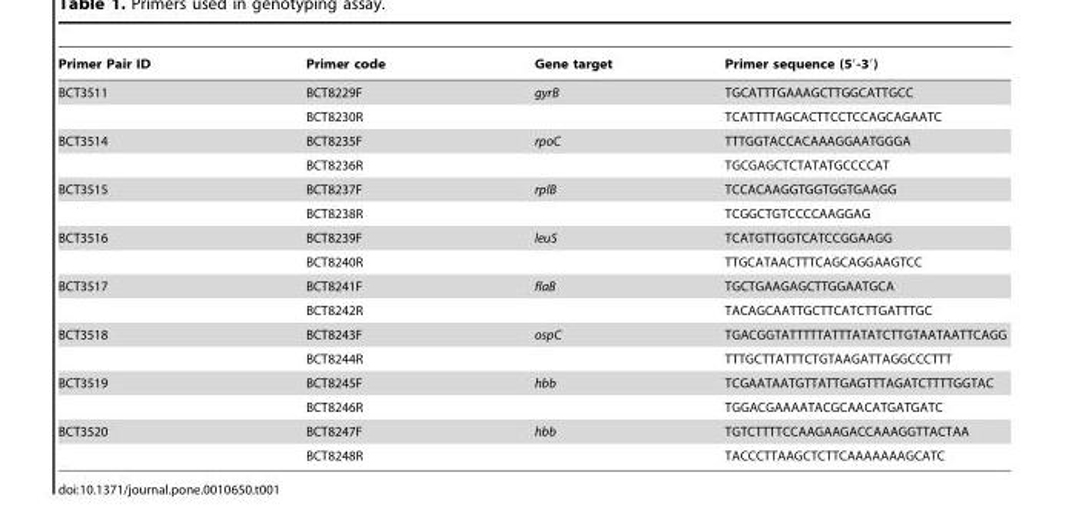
<table><thead><tr><td>Primer Pair ID</td><td>Primer code</td><td>Gene target</td><td>Primer sequence (5′-3′)</td></tr></thead><tbody><tr><td rowspan="2">BCT3511</td><td>BCT8229F</td><td>gyrB</td><td>TGCATTTGAAAGCTTGGCATTGCC</td></tr><tr><td>BCT8230R</td><td></td><td>TCATTTTAGCACTTCCTCCAGCAGAATC</td></tr><tr><td rowspan="2">BCT3514</td><td>BCT8235F</td><td>rpoC</td><td>TTTGGTACCACAAAGGAATGGGA</td></tr><tr><td>BCT8236R</td><td></td><td>TGCGAGCTCTATATGCCCCAT</td></tr><tr><td rowspan="2">BCT3515</td><td>BCT8237F</td><td>rplB</td><td>TCCACAAGGTGGTGGTGAAGG</td></tr><tr><td>BCT8238R</td><td></td><td>TCGGCTGTCCCCAAGGAG</td></tr><tr><td rowspan="2">BCT3516</td><td>BCT8239F</td><td>leuS</td><td>TCATGTTGGTCATCCGGAAGG</td></tr><tr><td>BCT8240R</td><td></td><td>TTGCATAACTTTCAGCAGGAAGTCC</td></tr><tr><td rowspan="2">BCT3517</td><td>BCT8241F</td><td>flaB</td><td>TGCTGAAGAGCTTGGAATGCA</td></tr><tr><td>BCT8242R</td><td></td><td>TACAGCAATTGCTTCATCTTGATTTGC</td></tr><tr><td rowspan="2">BCT3518</td><td>BCT8243F</td><td>ospC</td><td>TGACGGTATTTTTATTTATATCTTGTAATAATTCAGG</td></tr><tr><td>BCT8244R</td><td></td><td>TTTGCTTATTTCTGTAAGATTAGGCCCTTT</td></tr><tr><td rowspan="2">BCT3519</td><td>BCT8245F</td><td>hbb</td><td>TCGAATAATGTTATTGAGTTTAGATCTTTTGGTAC</td></tr><tr><td>BCT8246R</td><td></td><td>TGGACGAAAATACGCAACATGATGATC</td></tr><tr><td rowspan="2">BCT3520</td><td>BCT8247F</td><td>hbb</td><td>TGTCTTTTCCAAGAAGACCAAAGGTTACTAA</td></tr><tr><td>BCT8248R</td><td></td><td>TACCCTTAAGCTCTTCAAAAAAAGCATC</td></tr></tbody></table>